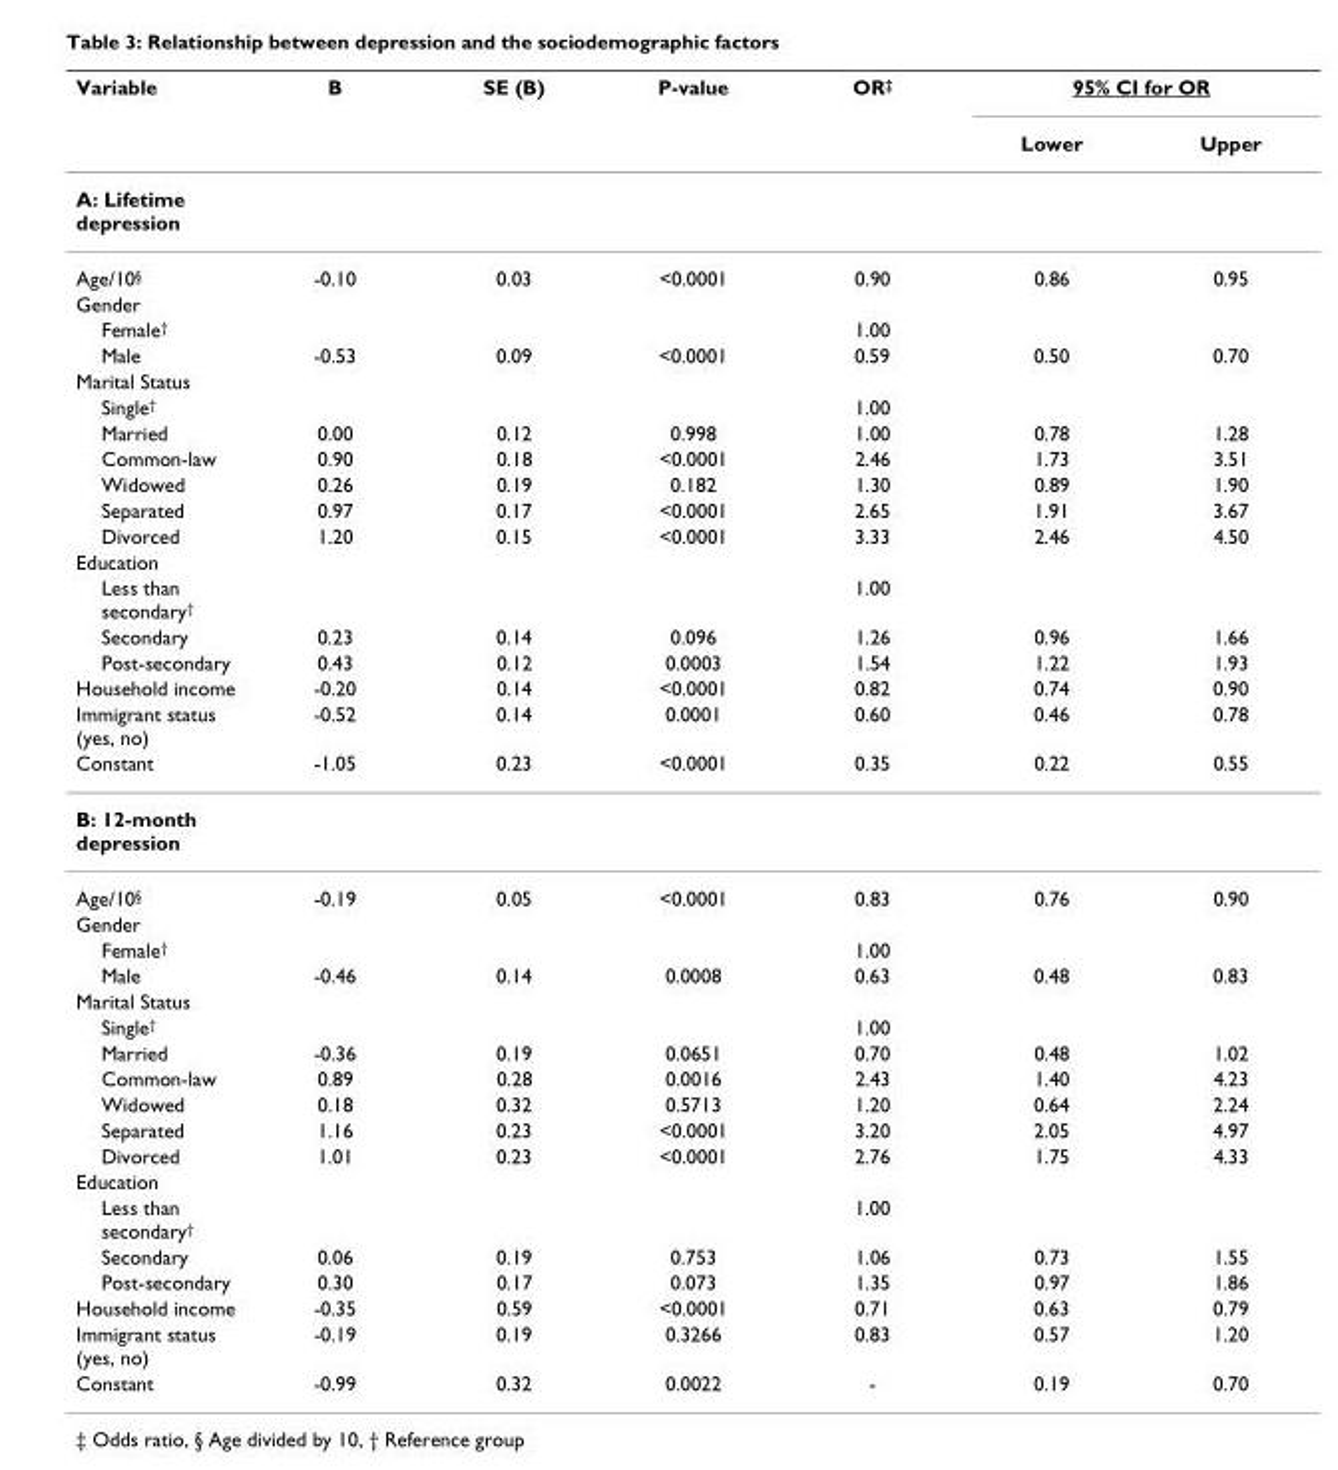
<table><thead><tr><td rowspan="2">Variable</td><td rowspan="2">B</td><td rowspan="2">SE (B)</td><td rowspan="2">P-value</td><td rowspan="2">OR<sup>‡</sup></td><td colspan="2">95% CI for OR</td></tr><tr><td>Lower</td><td>Upper</td></tr></thead><tbody><tr><td colspan="7">A: Lifetime depression</td></tr><tr><td>Age/10<sup>§</sup></td><td>-0.10</td><td>0.03</td><td>&lt;0.0001</td><td>0.90</td><td>0.86</td><td>0.95</td></tr><tr><td colspan="7">Gender</td></tr><tr><td>Female<sup>†</sup></td><td></td><td></td><td></td><td>1.00</td><td></td><td></td></tr><tr><td>Male</td><td>-0.53</td><td>0.09</td><td>&lt;0.0001</td><td>0.59</td><td>0.50</td><td>0.70</td></tr><tr><td colspan="7">Marital Status</td></tr><tr><td>Single<sup>†</sup></td><td></td><td></td><td></td><td>1.00</td><td></td><td></td></tr><tr><td>Married</td><td>0.00</td><td>0.12</td><td>0.998</td><td>1.00</td><td>0.78</td><td>1.28</td></tr><tr><td>Common-law</td><td>0.90</td><td>0.18</td><td>&lt;0.0001</td><td>2.46</td><td>1.73</td><td>3.51</td></tr><tr><td>Widowed</td><td>0.26</td><td>0.19</td><td>0.182</td><td>1.30</td><td>0.89</td><td>1.90</td></tr><tr><td>Separated</td><td>0.97</td><td>0.17</td><td>&lt;0.0001</td><td>2.65</td><td>1.91</td><td>3.67</td></tr><tr><td>Divorced</td><td>1.20</td><td>0.15</td><td>&lt;0.0001</td><td>3.33</td><td>2.46</td><td>4.50</td></tr><tr><td colspan="7">Education</td></tr><tr><td>Less than secondary<sup>†</sup></td><td></td><td></td><td></td><td>1.00</td><td></td><td></td></tr><tr><td>Secondary</td><td>0.23</td><td>0.14</td><td>0.096</td><td>1.26</td><td>0.96</td><td>1.66</td></tr><tr><td>Post-secondary</td><td>0.43</td><td>0.12</td><td>0.0003</td><td>1.54</td><td>1.22</td><td>1.93</td></tr><tr><td>Household income</td><td>-0.20</td><td>0.14</td><td>&lt;0.0001</td><td>0.82</td><td>0.74</td><td>0.90</td></tr><tr><td>Immigrant status (yes, no)</td><td>-0.52</td><td>0.14</td><td>0.0001</td><td>0.60</td><td>0.46</td><td>0.78</td></tr><tr><td>Constant</td><td>-1.05</td><td>0.23</td><td>&lt;0.0001</td><td>0.35</td><td>0.22</td><td>0.55</td></tr><tr><td colspan="7">B: 12-month depression</td></tr><tr><td>Age/10<sup>§</sup></td><td>-0.19</td><td>0.05</td><td>&lt;0.0001</td><td>0.83</td><td>0.76</td><td>0.90</td></tr><tr><td colspan="7">Gender</td></tr><tr><td>Female<sup>†</sup></td><td></td><td></td><td></td><td>1.00</td><td></td><td></td></tr><tr><td>Male</td><td>-0.46</td><td>0.14</td><td>0.0008</td><td>0.63</td><td>0.48</td><td>0.83</td></tr><tr><td colspan="7">Marital Status</td></tr><tr><td>Single<sup>†</sup></td><td></td><td></td><td></td><td>1.00</td><td></td><td></td></tr><tr><td>Married</td><td>-0.36</td><td>0.19</td><td>0.0651</td><td>0.70</td><td>0.48</td><td>1.02</td></tr><tr><td>Common-law</td><td>0.89</td><td>0.28</td><td>0.0016</td><td>2.43</td><td>1.40</td><td>4.23</td></tr><tr><td>Widowed</td><td>0.18</td><td>0.32</td><td>0.5713</td><td>1.20</td><td>0.64</td><td>2.24</td></tr><tr><td>Separated</td><td>1.16</td><td>0.23</td><td>&lt;0.0001</td><td>3.20</td><td>2.05</td><td>4.97</td></tr><tr><td>Divorced</td><td>1.01</td><td>0.23</td><td>&lt;0.0001</td><td>2.76</td><td>1.75</td><td>4.33</td></tr><tr><td colspan="7">Education</td></tr><tr><td>Less than secondary<sup>†</sup></td><td></td><td></td><td></td><td>1.00</td><td></td><td></td></tr><tr><td>Secondary</td><td>0.06</td><td>0.19</td><td>0.753</td><td>1.06</td><td>0.73</td><td>1.55</td></tr><tr><td>Post-secondary</td><td>0.30</td><td>0.17</td><td>0.073</td><td>1.35</td><td>0.97</td><td>1.86</td></tr><tr><td>Household income</td><td>-0.35</td><td>0.59</td><td>&lt;0.0001</td><td>0.71</td><td>0.63</td><td>0.79</td></tr><tr><td>Immigrant status (yes, no)</td><td>-0.19</td><td>0.19</td><td>0.3266</td><td>0.83</td><td>0.57</td><td>1.20</td></tr><tr><td>Constant</td><td>-0.99</td><td>0.32</td><td>0.0022</td><td>-</td><td>0.19</td><td>0.70</td></tr></tbody></table>